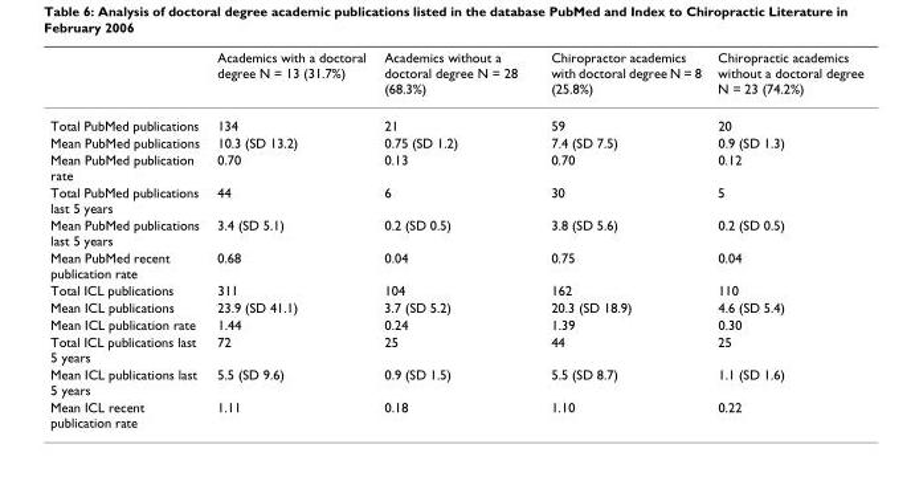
<table><thead><tr><td></td><td>Academics with a doctoral degree N = 13 (31.7%)</td><td>Academics without a doctoral degree N = 28 (68.3%)</td><td>Chiropractor academics with doctoral degree N = 8 (25.8%)</td><td>Chiropractic academics without a doctoral degree N = 23 (74.2%)</td></tr></thead><tbody><tr><td>Total PubMed publications</td><td>134</td><td>21</td><td>59</td><td>20</td></tr><tr><td>Mean PubMed publications</td><td>10.3 (SD 13.2)</td><td>0.75 (SD 1.2)</td><td>7.4 (SD 7.5)</td><td>0.9 (SD 1.3)</td></tr><tr><td>Mean PubMed publication rate</td><td>0.70</td><td>0.13</td><td>0.70</td><td>0.12</td></tr><tr><td>Total PubMed publications last 5 years</td><td>44</td><td>6</td><td>30</td><td>5</td></tr><tr><td>Mean PubMed publications last 5 years</td><td>3.4 (SD 5.1)</td><td>0.2 (SD 0.5)</td><td>3.8 (SD 5.6)</td><td>0.2 (SD 0.5)</td></tr><tr><td>Mean PubMed recent publication rate</td><td>0.68</td><td>0.04</td><td>0.75</td><td>0.04</td></tr><tr><td>Total ICL publications</td><td>311</td><td>104</td><td>162</td><td>110</td></tr><tr><td>Mean ICL publications</td><td>23.9 (SD 41.1)</td><td>3.7 (SD 5.2)</td><td>20.3 (SD 18.9)</td><td>4.6 (SD 5.4)</td></tr><tr><td>Mean ICL publication rate</td><td>1.44</td><td>0.24</td><td>1.39</td><td>0.30</td></tr><tr><td>Total ICL publications last 5 years</td><td>72</td><td>25</td><td>44</td><td>25</td></tr><tr><td>Mean ICL publications last 5 years</td><td>5.5 (SD 9.6)</td><td>0.9 (SD 1.5)</td><td>5.5 (SD 8.7)</td><td>1.1 (SD 1.6)</td></tr><tr><td>Mean ICL recent publication rate</td><td>1.11</td><td>0.18</td><td>1.10</td><td>0.22</td></tr></tbody></table>